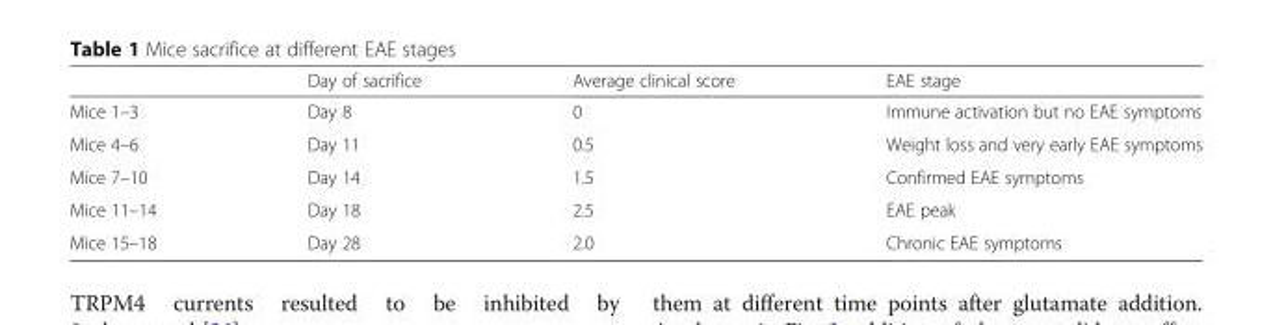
<table><thead><tr><td></td><td>Day of sacrifice</td><td>Average clinical score</td><td>EAE stage</td></tr></thead><tbody><tr><td>Mice 1–3</td><td>Day 8</td><td>0</td><td>Immune activation but no EAE symptoms</td></tr><tr><td>Mice 4–6</td><td>Day 11</td><td>0.5</td><td>Weight loss and very early EAE symptoms</td></tr><tr><td>Mice 7–10</td><td>Day 14</td><td>1.5</td><td>Confirmed EAE symptoms</td></tr><tr><td>Mice 11–14</td><td>Day 18</td><td>2.5</td><td>EAE peak</td></tr><tr><td>Mice 15–18</td><td>Day 28</td><td>2.0</td><td>Chronic EAE symptoms</td></tr></tbody></table>